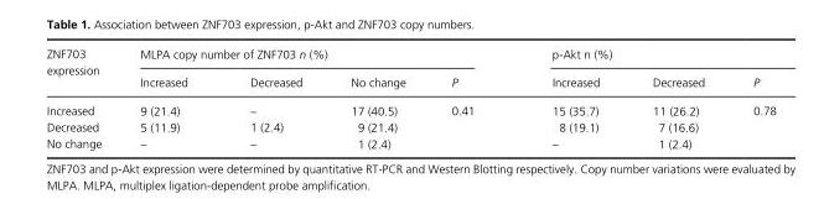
<table><thead><tr><td rowspan="2">ZNF703 expression</td><td colspan="4">MLPA copy number of ZNF703 n (%)</td><td colspan="3">p-Akt n (%)</td></tr><tr><td>Increased</td><td>Decreased</td><td>No change</td><td>P</td><td>Increased</td><td>Decreased</td><td>P</td></tr></thead><tbody><tr><td>Increased</td><td>9 (21.4)</td><td>–</td><td>17 (40.5)</td><td rowspan="3">0.41</td><td>15 (35.7)</td><td>11 (26.2)</td><td rowspan="3">0.78</td></tr><tr><td>Decreased</td><td>5 (11.9)</td><td>1 (2.4)</td><td>9 (21.4)</td><td>8 (19.1)</td><td>7 (16.6)</td></tr><tr><td>No change</td><td>–</td><td>–</td><td>1 (2.4)</td><td>–</td><td>1 (2.4)</td></tr></tbody></table>